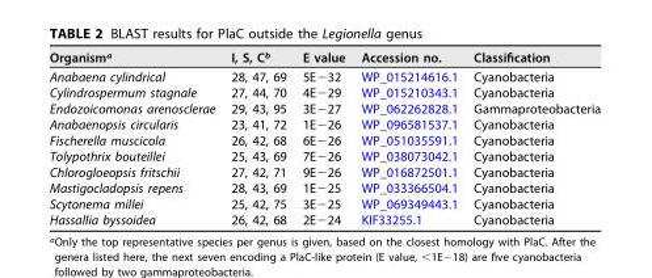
<table><thead><tr><td>Organism<sup>a</sup></td><td>I, S, C<sup>b</sup></td><td>E value</td><td>Accession no.</td><td>Classification</td></tr></thead><tbody><tr><td>Anabaena cylindrical</td><td>28, 47, 69</td><td>5E−32</td><td>WP_015214616.1</td><td>Cyanobacteria</td></tr><tr><td>Cylindrospermum stagnale</td><td>27, 44, 70</td><td>4E−29</td><td>WP_015210343.1</td><td>Cyanobacteria</td></tr><tr><td>Endozoicomonas arenosclerae</td><td>29, 43, 95</td><td>3E−27</td><td>WP_062262828.1</td><td>Gammaproteobacteria</td></tr><tr><td>Anabaenopsis circularis</td><td>23, 41, 72</td><td>1E−26</td><td>WP_096581537.1</td><td>Cyanobacteria</td></tr><tr><td>Fischerella muscicola</td><td>26, 42, 68</td><td>6E−26</td><td>WP_051035591.1</td><td>Cyanobacteria</td></tr><tr><td>Tolypothrix bouteillei</td><td>25, 43, 69</td><td>7E−26</td><td>WP_038073042.1</td><td>Cyanobacteria</td></tr><tr><td>Chlorogloeopsis fritschii</td><td>27, 42, 71</td><td>9E−26</td><td>WP_016872501.1</td><td>Cyanobacteria</td></tr><tr><td>Mastigocladopsis repens</td><td>28, 43, 69</td><td>1E−25</td><td>WP_033366504.1</td><td>Cyanobacteria</td></tr><tr><td>Scytonema millei</td><td>25, 42, 75</td><td>3E−25</td><td>WP_069349443.1</td><td>Cyanobacteria</td></tr><tr><td>Hassallia byssoidea</td><td>26, 42, 68</td><td>2E−24</td><td>KIF33255.1</td><td>Cyanobacteria</td></tr></tbody></table>